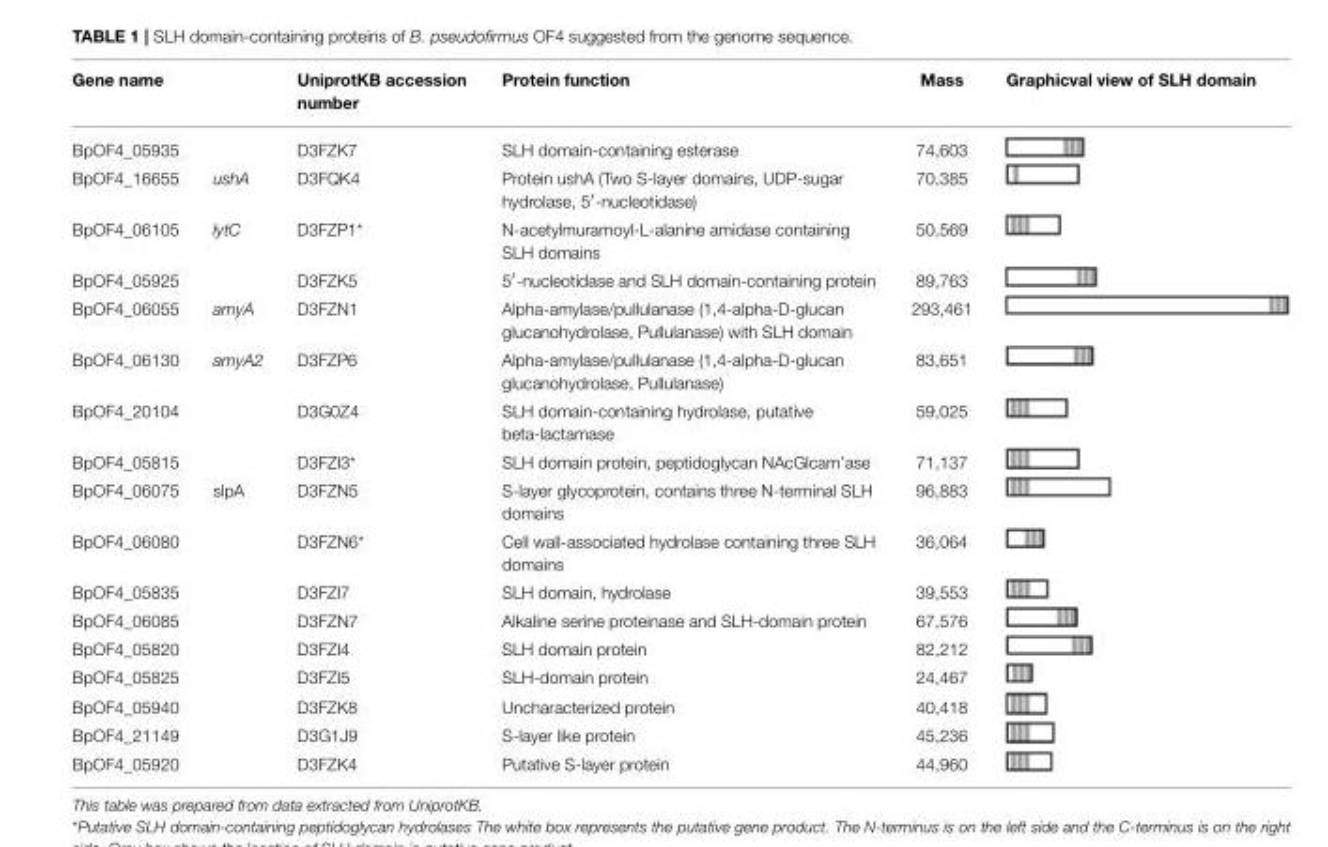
<table><thead><tr><td>Gene name</td><td></td><td>UniprotKB accession number</td><td>Protein function</td><td>Mass</td><td>Graphicval view of SLH domain</td></tr></thead><tbody><tr><td>BpOF4_05935</td><td></td><td>D3FZK7</td><td>SLH domain-containing esterase</td><td>74,603</td><td></td></tr><tr><td>BpOF4_16655</td><td>ushA</td><td>D3FQK4</td><td>Protein ushA (Two S-layer domains, UDP-sugar hydrolase, 5′-nucleotidase)</td><td>70,385</td><td></td></tr><tr><td>BpOF4_06105</td><td>lytC</td><td>D3FZP1*</td><td>N-acetylmuramoyl-L-alanine amidase containing SLH domains</td><td>50,569</td><td></td></tr><tr><td>BpOF4_05925</td><td></td><td>D3FZK5</td><td>5′-nucleotidase and SLH domain-containing protein</td><td>89,763</td><td></td></tr><tr><td>BpOF4_06055</td><td>amyA</td><td>D3FZN1</td><td>Alpha-amylase/pullulanase (1,4-alpha-D-glucan glucanohydrolase, Pullulanase) with SLH domain</td><td>293,461</td><td></td></tr><tr><td>BpOF4_06130</td><td>amyA2</td><td>D3FZP6</td><td>Alpha-amylase/pullulanase (1,4-alpha-D-glucan glucanohydrolase, Pullulanase)</td><td>83,651</td><td></td></tr><tr><td>BpOF4_20104</td><td></td><td>D3G0Z4</td><td>SLH domain-containing hydrolase, putative beta-lactamase</td><td>59,025</td><td></td></tr><tr><td>BpOF4_05815</td><td></td><td>D3FZI3*</td><td>SLH domain protein, peptidoglycan NAcGlcam’ase</td><td>71,137</td><td></td></tr><tr><td>BpOF4_06075</td><td>slpA</td><td>D3FZN5</td><td>S-layer glycoprotein, contains three N-terminal SLH domains</td><td>96,883</td><td></td></tr><tr><td>BpOF4_06080</td><td></td><td>D3FZN6*</td><td>Cell wall-associated hydrolase containing three SLH domains</td><td>36,064</td><td></td></tr><tr><td>BpOF4_05835</td><td></td><td>D3FZI7</td><td>SLH domain, hydrolase</td><td>39,553</td><td></td></tr><tr><td>BpOF4_06085</td><td></td><td>D3FZN7</td><td>Alkaline serine proteinase and SLH-domain protein</td><td>67,576</td><td></td></tr><tr><td>BpOF4_05820</td><td></td><td>D3FZI4</td><td>SLH domain protein</td><td>82,212</td><td></td></tr><tr><td>BpOF4_05825</td><td></td><td>D3FZI5</td><td>SLH-domain protein</td><td>24,467</td><td></td></tr><tr><td>BpOF4_05940</td><td></td><td>D3FZK8</td><td>Uncharacterized protein</td><td>40,418</td><td></td></tr><tr><td>BpOF4_21149</td><td></td><td>D3G1J9</td><td>S-layer like protein</td><td>45,236</td><td></td></tr><tr><td>BpOF4_05920</td><td></td><td>D3FZK4</td><td>Putative S-layer protein</td><td>44,960</td><td></td></tr></tbody></table>